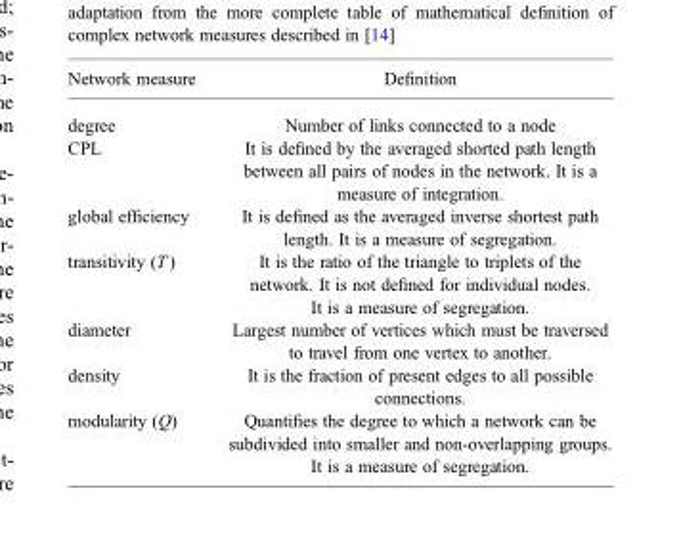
<table><thead><tr><td>Network measure</td><td>Definition</td></tr></thead><tbody><tr><td>degree</td><td>Number of links connected to a node</td></tr><tr><td>CPL</td><td>It is defined by the averaged shorted path length between all pairs of nodes in the network. It is a measure of integration.</td></tr><tr><td>global efficiency</td><td>It is defined as the averaged inverse shortest path length. It is a measure of segregation.</td></tr><tr><td>transitivity (T)</td><td>It is the ratio of the triangle to triplets of the network. It is not defined for individual nodes. It is a measure of segregation.</td></tr><tr><td>diameter</td><td>Largest number of vertices which must be traversed to travel from one vertex to another.</td></tr><tr><td>density</td><td>It is the fraction of present edges to all possible connections.</td></tr><tr><td>modularity (Q)</td><td>Quantifies the degree to which a network can be subdivided into smaller and non-overlapping groups. It is a measure of segregation.</td></tr></tbody></table>